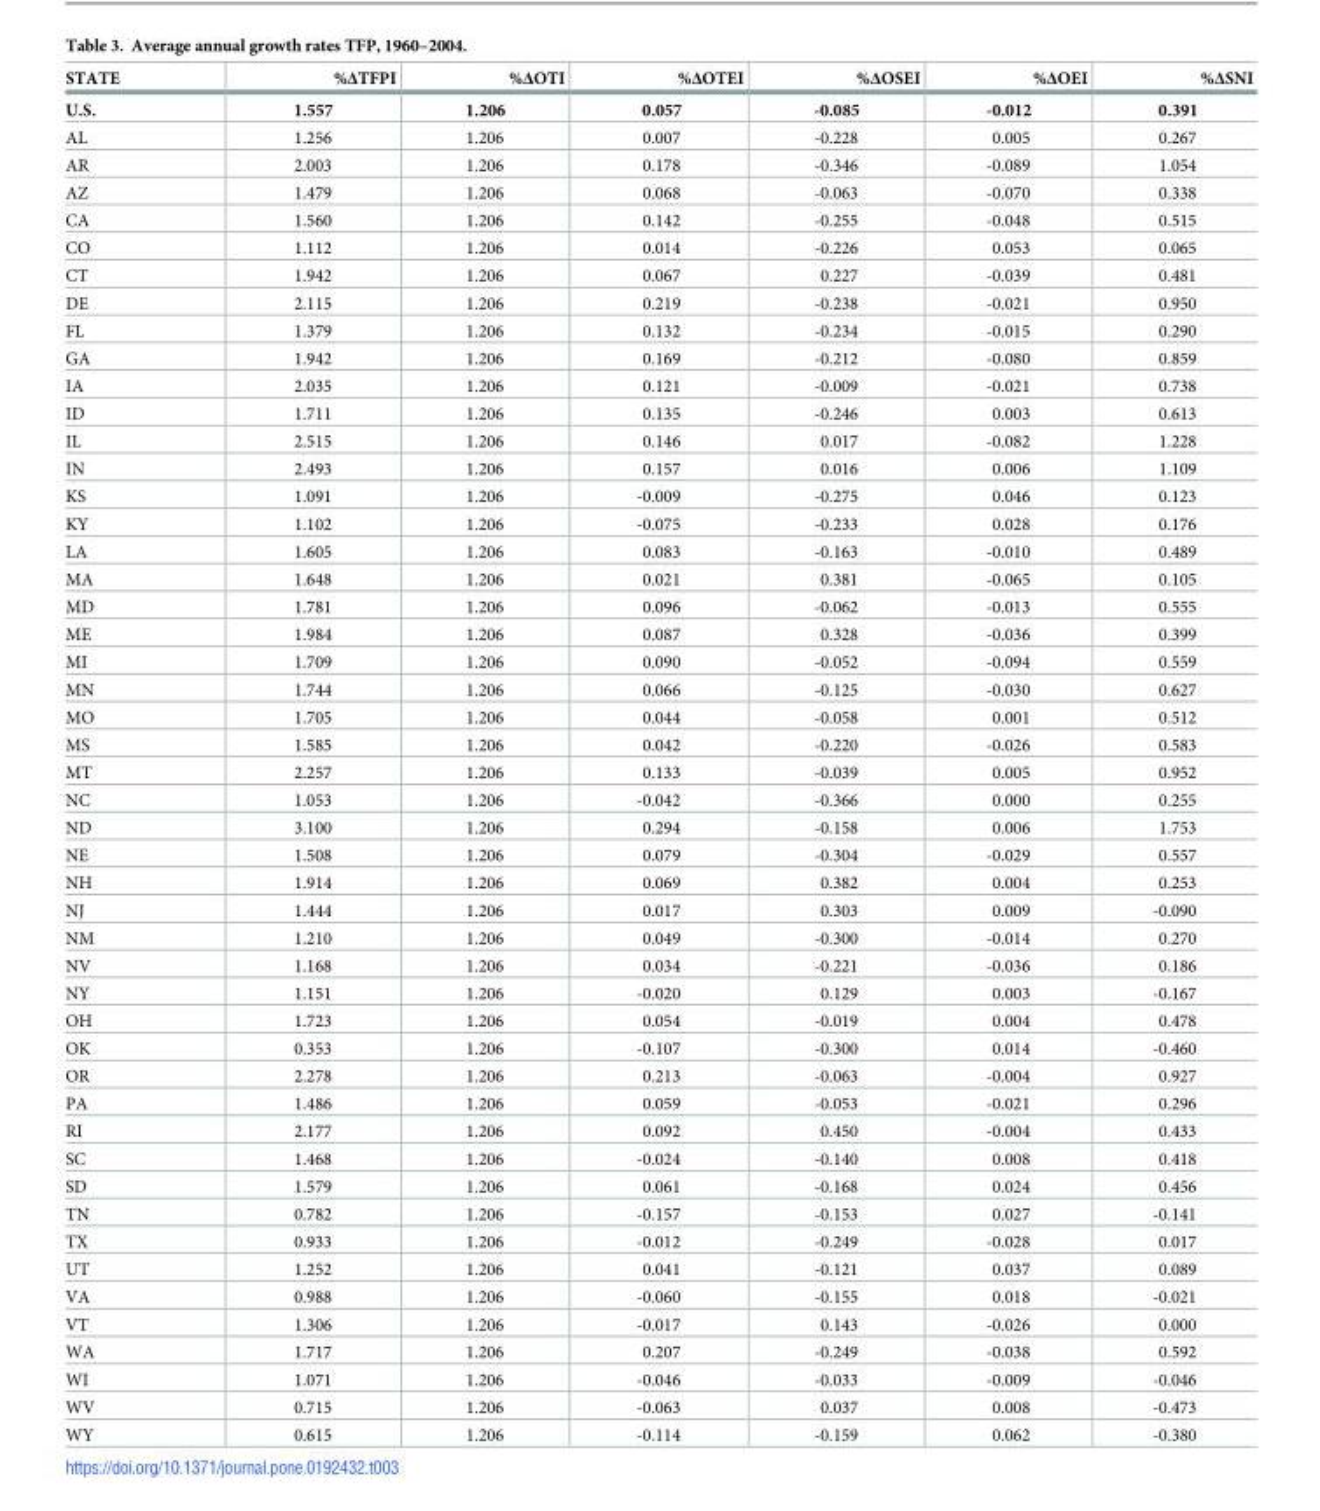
<table><thead><tr><td>STATE</td><td>%ΔTFPI</td><td>%ΔOTI</td><td>%ΔOTEI</td><td>%ΔOSEI</td><td>%ΔOEI</td><td>%ΔSNI</td></tr></thead><tbody><tr><td>U.S.</td><td>1.557</td><td>1.206</td><td>0.057</td><td>-0.085</td><td>-0.012</td><td>0.391</td></tr><tr><td>AL</td><td>1.256</td><td>1.206</td><td>0.007</td><td>-0.228</td><td>0.005</td><td>0.267</td></tr><tr><td>AR</td><td>2.003</td><td>1.206</td><td>0.178</td><td>-0.346</td><td>-0.089</td><td>1.054</td></tr><tr><td>AZ</td><td>1.479</td><td>1.206</td><td>0.068</td><td>-0.063</td><td>-0.070</td><td>0.338</td></tr><tr><td>CA</td><td>1.560</td><td>1.206</td><td>0.142</td><td>-0.255</td><td>-0.048</td><td>0.515</td></tr><tr><td>CO</td><td>1.112</td><td>1.206</td><td>0.014</td><td>-0.226</td><td>0.053</td><td>0.065</td></tr><tr><td>CT</td><td>1.942</td><td>1.206</td><td>0.067</td><td>0.227</td><td>-0.039</td><td>0.481</td></tr><tr><td>DE</td><td>2.115</td><td>1.206</td><td>0.219</td><td>-0.238</td><td>-0.021</td><td>0.950</td></tr><tr><td>FL</td><td>1.379</td><td>1.206</td><td>0.132</td><td>-0.234</td><td>-0.015</td><td>0.290</td></tr><tr><td>GA</td><td>1.942</td><td>1.206</td><td>0.169</td><td>-0.212</td><td>-0.080</td><td>0.859</td></tr><tr><td>IA</td><td>2.035</td><td>1.206</td><td>0.121</td><td>-0.009</td><td>-0.021</td><td>0.738</td></tr><tr><td>ID</td><td>1.711</td><td>1.206</td><td>0.135</td><td>-0.246</td><td>0.003</td><td>0.613</td></tr><tr><td>IL</td><td>2.515</td><td>1.206</td><td>0.146</td><td>0.017</td><td>-0.082</td><td>1.228</td></tr><tr><td>IN</td><td>2.493</td><td>1.206</td><td>0.157</td><td>0.016</td><td>0.006</td><td>1.109</td></tr><tr><td>KS</td><td>1.091</td><td>1.206</td><td>-0.009</td><td>-0.275</td><td>0.046</td><td>0.123</td></tr><tr><td>KY</td><td>1.102</td><td>1.206</td><td>-0.075</td><td>-0.233</td><td>0.028</td><td>0.176</td></tr><tr><td>LA</td><td>1.605</td><td>1.206</td><td>0.083</td><td>-0.163</td><td>-0.010</td><td>0.489</td></tr><tr><td>MA</td><td>1.648</td><td>1.206</td><td>0.021</td><td>0.381</td><td>-0.065</td><td>0.105</td></tr><tr><td>MD</td><td>1.781</td><td>1.206</td><td>0.096</td><td>-0.062</td><td>-0.013</td><td>0.555</td></tr><tr><td>ME</td><td>1.984</td><td>1.206</td><td>0.087</td><td>0.328</td><td>-0.036</td><td>0.399</td></tr><tr><td>MI</td><td>1.709</td><td>1.206</td><td>0.090</td><td>-0.052</td><td>-0.094</td><td>0.559</td></tr><tr><td>MN</td><td>1.744</td><td>1.206</td><td>0.066</td><td>-0.125</td><td>-0.030</td><td>0.627</td></tr><tr><td>MO</td><td>1.705</td><td>1.206</td><td>0.044</td><td>-0.058</td><td>0.001</td><td>0.512</td></tr><tr><td>MS</td><td>1.585</td><td>1.206</td><td>0.042</td><td>-0.220</td><td>-0.026</td><td>0.583</td></tr><tr><td>MT</td><td>2.257</td><td>1.206</td><td>0.133</td><td>-0.039</td><td>0.005</td><td>0.952</td></tr><tr><td>NC</td><td>1.053</td><td>1.206</td><td>-0.042</td><td>-0.366</td><td>0.000</td><td>0.255</td></tr><tr><td>ND</td><td>3.100</td><td>1.206</td><td>0.294</td><td>-0.158</td><td>0.006</td><td>1.753</td></tr><tr><td>NE</td><td>1.508</td><td>1.206</td><td>0.079</td><td>-0.304</td><td>-0.029</td><td>0.557</td></tr><tr><td>NH</td><td>1.914</td><td>1.206</td><td>0.069</td><td>0.382</td><td>0.004</td><td>0.253</td></tr><tr><td>NJ</td><td>1.444</td><td>1.206</td><td>0.017</td><td>0.303</td><td>0.009</td><td>-0.090</td></tr><tr><td>NM</td><td>1.210</td><td>1.206</td><td>0.049</td><td>-0.300</td><td>-0.014</td><td>0.270</td></tr><tr><td>NV</td><td>1.168</td><td>1.206</td><td>0.034</td><td>-0.221</td><td>-0.036</td><td>0.186</td></tr><tr><td>NY</td><td>1.151</td><td>1.206</td><td>-0.020</td><td>0.129</td><td>0.003</td><td>-0.167</td></tr><tr><td>OH</td><td>1.723</td><td>1.206</td><td>0.054</td><td>-0.019</td><td>0.004</td><td>0.478</td></tr><tr><td>OK</td><td>0.353</td><td>1.206</td><td>-0.107</td><td>-0.300</td><td>0.014</td><td>-0.460</td></tr><tr><td>OR</td><td>2.278</td><td>1.206</td><td>0.213</td><td>-0.063</td><td>-0.004</td><td>0.927</td></tr><tr><td>PA</td><td>1.486</td><td>1.206</td><td>0.059</td><td>-0.053</td><td>-0.021</td><td>0.296</td></tr><tr><td>RI</td><td>2.177</td><td>1.206</td><td>0.092</td><td>0.450</td><td>-0.004</td><td>0.433</td></tr><tr><td>SC</td><td>1.468</td><td>1.206</td><td>-0.024</td><td>-0.140</td><td>0.008</td><td>0.418</td></tr><tr><td>SD</td><td>1.579</td><td>1.206</td><td>0.061</td><td>-0.168</td><td>0.024</td><td>0.456</td></tr><tr><td>TN</td><td>0.782</td><td>1.206</td><td>-0.157</td><td>-0.153</td><td>0.027</td><td>-0.141</td></tr><tr><td>TX</td><td>0.933</td><td>1.206</td><td>-0.012</td><td>-0.249</td><td>-0.028</td><td>0.017</td></tr><tr><td>UT</td><td>1.252</td><td>1.206</td><td>0.041</td><td>-0.121</td><td>0.037</td><td>0.089</td></tr><tr><td>VA</td><td>0.988</td><td>1.206</td><td>-0.060</td><td>-0.155</td><td>0.018</td><td>-0.021</td></tr><tr><td>VT</td><td>1.306</td><td>1.206</td><td>-0.017</td><td>0.143</td><td>-0.026</td><td>0.000</td></tr><tr><td>WA</td><td>1.717</td><td>1.206</td><td>0.207</td><td>-0.249</td><td>-0.038</td><td>0.592</td></tr><tr><td>WI</td><td>1.071</td><td>1.206</td><td>-0.046</td><td>-0.033</td><td>-0.009</td><td>-0.046</td></tr><tr><td>WV</td><td>0.715</td><td>1.206</td><td>-0.063</td><td>0.037</td><td>0.008</td><td>-0.473</td></tr><tr><td>WY</td><td>0.615</td><td>1.206</td><td>-0.114</td><td>-0.159</td><td>0.062</td><td>-0.380</td></tr></tbody></table>